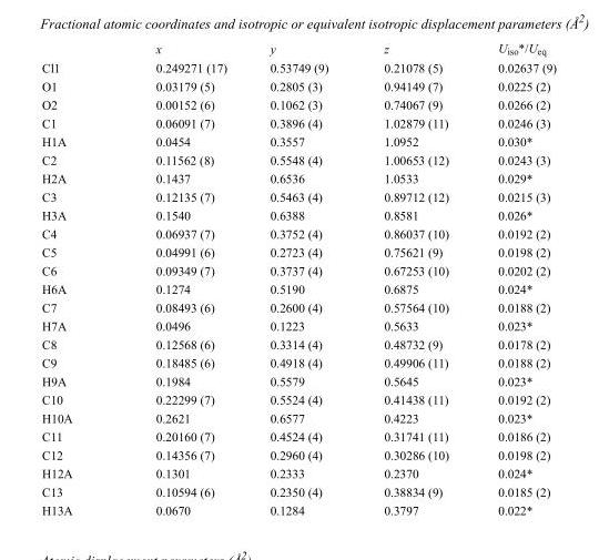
<table><thead><tr><td></td><td>x</td><td>y</td><td>z</td><td>U<sub>iso</sub>*/U<sub>eq</sub></td></tr></thead><tbody><tr><td>Cl1</td><td>0.249271 (17)</td><td>0.53749 (9)</td><td>0.21078 (5)</td><td>0.02637 (9)</td></tr><tr><td>O1</td><td>0.03179 (5)</td><td>0.2805 (3)</td><td>0.94149 (7)</td><td>0.0225 (2)</td></tr><tr><td>O2</td><td>0.00152 (6)</td><td>0.1062 (3)</td><td>0.74067 (9)</td><td>0.0266 (2)</td></tr><tr><td>C1</td><td>0.06091 (7)</td><td>0.3896 (4)</td><td>1.02879 (11)</td><td>0.0246 (3)</td></tr><tr><td>H1A</td><td>0.0454</td><td>0.3557</td><td>1.0952</td><td>0.030*</td></tr><tr><td>C2</td><td>0.11562 (8)</td><td>0.5548 (4)</td><td>1.00653 (12)</td><td>0.0243 (3)</td></tr><tr><td>H2A</td><td>0.1437</td><td>0.6536</td><td>1.0533</td><td>0.029*</td></tr><tr><td>C3</td><td>0.12135 (7)</td><td>0.5463 (4)</td><td>0.89712 (12)</td><td>0.0215 (3)</td></tr><tr><td>H3A</td><td>0.1540</td><td>0.6388</td><td>0.8581</td><td>0.026*</td></tr><tr><td>C4</td><td>0.06937 (7)</td><td>0.3752 (4)</td><td>0.86037 (10)</td><td>0.0192 (2)</td></tr><tr><td>C5</td><td>0.04991 (6)</td><td>0.2723 (4)</td><td>0.75621 (9)</td><td>0.0198 (2)</td></tr><tr><td>C6</td><td>0.09349 (7)</td><td>0.3737 (4)</td><td>0.67253 (10)</td><td>0.0202 (2)</td></tr><tr><td>H6A</td><td>0.1274</td><td>0.5190</td><td>0.6875</td><td>0.024*</td></tr><tr><td>C7</td><td>0.08493 (6)</td><td>0.2600 (4)</td><td>0.57564 (10)</td><td>0.0188 (2)</td></tr><tr><td>H7A</td><td>0.0496</td><td>0.1223</td><td>0.5633</td><td>0.023*</td></tr><tr><td>C8</td><td>0.12568 (6)</td><td>0.3314 (4)</td><td>0.48732 (9)</td><td>0.0178 (2)</td></tr><tr><td>C9</td><td>0.18485 (6)</td><td>0.4918 (4)</td><td>0.49906 (11)</td><td>0.0188 (2)</td></tr><tr><td>H9A</td><td>0.1984</td><td>0.5579</td><td>0.5645</td><td>0.023*</td></tr><tr><td>C10</td><td>0.22299 (7)</td><td>0.5524 (4)</td><td>0.41438 (11)</td><td>0.0192 (2)</td></tr><tr><td>H10A</td><td>0.2621</td><td>0.6577</td><td>0.4223</td><td>0.023*</td></tr><tr><td>C11</td><td>0.20160 (7)</td><td>0.4524 (4)</td><td>0.31741 (11)</td><td>0.0186 (2)</td></tr><tr><td>C12</td><td>0.14356 (7)</td><td>0.2960 (4)</td><td>0.30286 (10)</td><td>0.0198 (2)</td></tr><tr><td>H12A</td><td>0.1301</td><td>0.2333</td><td>0.2370</td><td>0.024*</td></tr><tr><td>C13</td><td>0.10594 (6)</td><td>0.2350 (4)</td><td>0.38834 (9)</td><td>0.0185 (2)</td></tr><tr><td>H13A</td><td>0.0670</td><td>0.1284</td><td>0.3797</td><td>0.022*</td></tr></tbody></table>